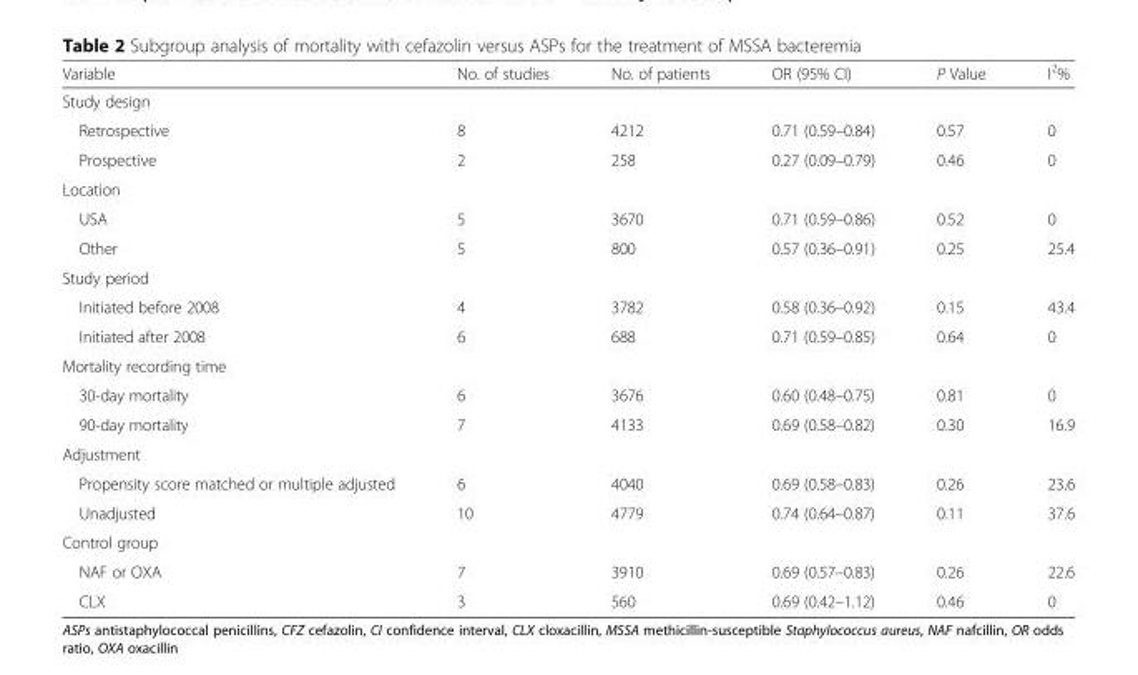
<table><thead><tr><td>Variable</td><td>No. of studies</td><td>No. of patients</td><td>OR (95% CI)</td><td>P Value</td><td>I<sup>2</sup>%</td></tr></thead><tbody><tr><td colspan="6">Study design</td></tr><tr><td>Retrospective</td><td>8</td><td>4212</td><td>0.71 (0.59–0.84)</td><td>0.57</td><td>0</td></tr><tr><td>Prospective</td><td>2</td><td>258</td><td>0.27 (0.09–0.79)</td><td>0.46</td><td>0</td></tr><tr><td colspan="6">Location</td></tr><tr><td>USA</td><td>5</td><td>3670</td><td>0.71 (0.59–0.86)</td><td>0.52</td><td>0</td></tr><tr><td>Other</td><td>5</td><td>800</td><td>0.57 (0.36–0.91)</td><td>0.25</td><td>25.4</td></tr><tr><td colspan="6">Study period</td></tr><tr><td>Initiated before 2008</td><td>4</td><td>3782</td><td>0.58 (0.36–0.92)</td><td>0.15</td><td>43.4</td></tr><tr><td>Initiated after 2008</td><td>6</td><td>688</td><td>0.71 (0.59–0.85)</td><td>0.64</td><td>0</td></tr><tr><td colspan="6">Mortality recording time</td></tr><tr><td>30-day mortality</td><td>6</td><td>3676</td><td>0.60 (0.48–0.75)</td><td>0.81</td><td>0</td></tr><tr><td>90-day mortality</td><td>7</td><td>4133</td><td>0.69 (0.58–0.82)</td><td>0.30</td><td>16.9</td></tr><tr><td colspan="6">Adjustment</td></tr><tr><td>Propensity score matched or multiple adjusted</td><td>6</td><td>4040</td><td>0.69 (0.58–0.83)</td><td>0.26</td><td>23.6</td></tr><tr><td>Unadjusted</td><td>10</td><td>4779</td><td>0.74 (0.64–0.87)</td><td>0.11</td><td>37.6</td></tr><tr><td colspan="6">Control group</td></tr><tr><td>NAF or OXA</td><td>7</td><td>3910</td><td>0.69 (0.57–0.83)</td><td>0.26</td><td>22.6</td></tr><tr><td>CLX</td><td>3</td><td>560</td><td>0.69 (0.42–1.12)</td><td>0.46</td><td>0</td></tr></tbody></table>